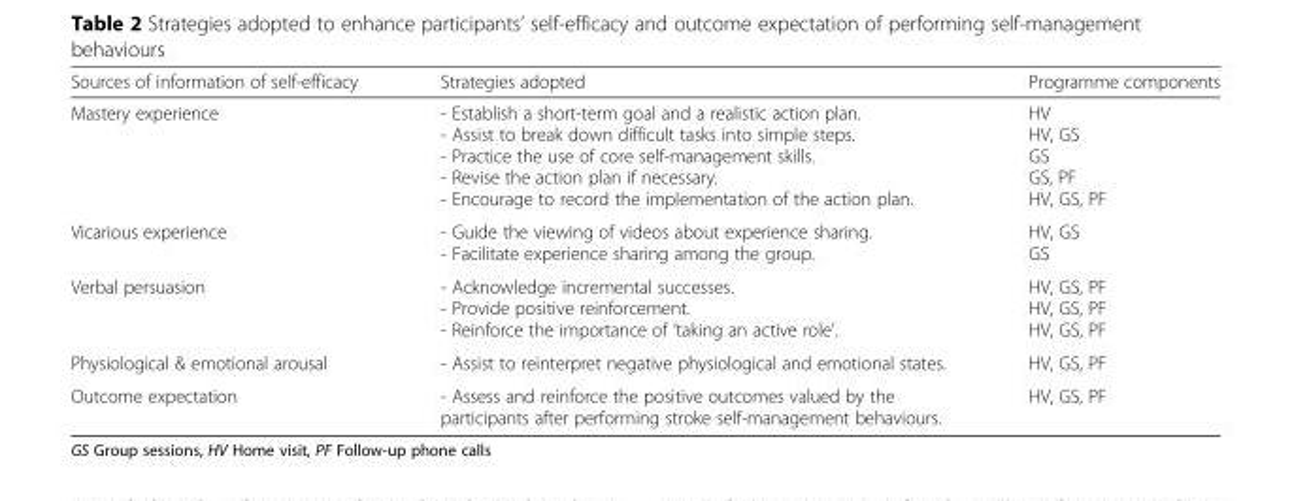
<table><thead><tr><td>Sources of information of self-efficacy</td><td>Strategies adopted</td><td>Programme components</td></tr></thead><tbody><tr><td>Mastery experience</td><td>- Establish a short-term goal and a realistic action plan. - Assist to break down difficult tasks into simple steps. - Practice the use of core self-management skills. - Revise the action plan if necessary. - Encourage to record the implementation of the action plan.</td><td>HV HV, GS GS GS, PF HV, GS, PF</td></tr><tr><td>Vicarious experience</td><td>- Guide the viewing of videos about experience sharing. - Facilitate experience sharing among the group.</td><td>HV, GS GS</td></tr><tr><td>Verbal persuasion</td><td>- Acknowledge incremental successes. - Provide positive reinforcement. - Reinforce the importance of ‘taking an active role’.</td><td>HV, GS, PF HV, GS, PF HV, GS, PF</td></tr><tr><td>Physiological &amp; emotional arousal</td><td>- Assist to reinterpret negative physiological and emotional states.</td><td>HV, GS, PF</td></tr><tr><td>Outcome expectation</td><td>- Assess and reinforce the positive outcomes valued by the participants after performing stroke self-management behaviours.</td><td>HV, GS, PF</td></tr></tbody></table>